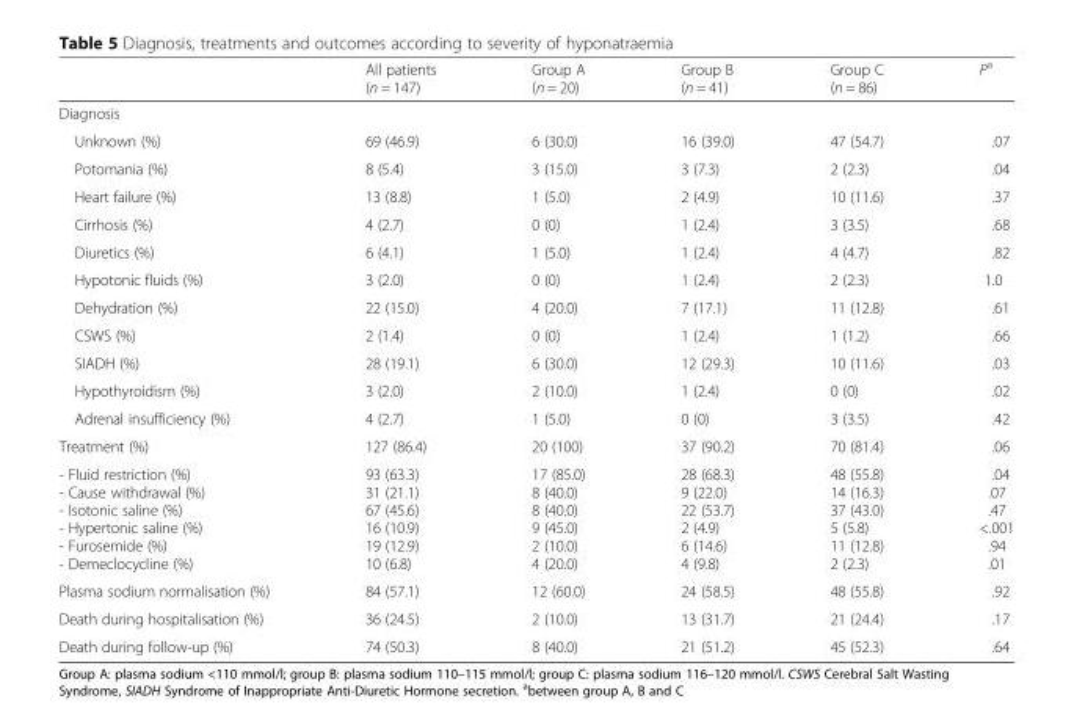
<table><thead><tr><td></td><td>All patients (n = 147)</td><td>Group A (n = 20)</td><td>Group B (n = 41)</td><td>Group C (n = 86)</td><td>P<sup>a</sup></td></tr></thead><tbody><tr><td colspan="6">Diagnosis</td></tr><tr><td>Unknown (%)</td><td>69 (46.9)</td><td>6 (30.0)</td><td>16 (39.0)</td><td>47 (54.7)</td><td>.07</td></tr><tr><td>Potomania (%)</td><td>8 (5.4)</td><td>3 (15.0)</td><td>3 (7.3)</td><td>2 (2.3)</td><td>.04</td></tr><tr><td>Heart failure (%)</td><td>13 (8.8)</td><td>1 (5.0)</td><td>2 (4.9)</td><td>10 (11.6)</td><td>.37</td></tr><tr><td>Cirrhosis (%)</td><td>4 (2.7)</td><td>0 (0)</td><td>1 (2.4)</td><td>3 (3.5)</td><td>.68</td></tr><tr><td>Diuretics (%)</td><td>6 (4.1)</td><td>1 (5.0)</td><td>1 (2.4)</td><td>4 (4.7)</td><td>.82</td></tr><tr><td>Hypotonic fluids (%)</td><td>3 (2.0)</td><td>0 (0)</td><td>1 (2.4)</td><td>2 (2.3)</td><td>1.0</td></tr><tr><td>Dehydration (%)</td><td>22 (15.0)</td><td>4 (20.0)</td><td>7 (17.1)</td><td>11 (12.8)</td><td>.61</td></tr><tr><td>CSWS (%)</td><td>2 (1.4)</td><td>0 (0)</td><td>1 (2.4)</td><td>1 (1.2)</td><td>.66</td></tr><tr><td>SIADH (%)</td><td>28 (19.1)</td><td>6 (30.0)</td><td>12 (29.3)</td><td>10 (11.6)</td><td>.03</td></tr><tr><td>Hypothyroidism (%)</td><td>3 (2.0)</td><td>2 (10.0)</td><td>1 (2.4)</td><td>0 (0)</td><td>.02</td></tr><tr><td>Adrenal insufficiency (%)</td><td>4 (2.7)</td><td>1 (5.0)</td><td>0 (0)</td><td>3 (3.5)</td><td>.42</td></tr><tr><td>Treatment (%)</td><td>127 (86.4)</td><td>20 (100)</td><td>37 (90.2)</td><td>70 (81.4)</td><td>.06</td></tr><tr><td>- Fluid restriction (%) - Cause withdrawal (%) - Isotonic saline (%) - Hypertonic saline (%) - Furosemide (%) - Demeclocycline (%)</td><td>93 (63.3) 31 (21.1) 67 (45.6) 16 (10.9) 19 (12.9) 10 (6.8)</td><td>17 (85.0) 8 (40.0) 8 (40.0) 9 (45.0) 2 (10.0) 4 (20.0)</td><td>28 (68.3) 9 (22.0) 22 (53.7) 2 (4.9) 6 (14.6) 4 (9.8)</td><td>48 (55.8) 14 (16.3) 37 (43.0) 5 (5.8) 11 (12.8) 2 (2.3)</td><td>.04 .07 .47 &lt;.001 .94 .01</td></tr><tr><td>Plasma sodium normalisation (%)</td><td>84 (57.1)</td><td>12 (60.0)</td><td>24 (58.5)</td><td>48 (55.8)</td><td>.92</td></tr><tr><td>Death during hospitalisation (%)</td><td>36 (24.5)</td><td>2 (10.0)</td><td>13 (31.7)</td><td>21 (24.4)</td><td>.17</td></tr><tr><td>Death during follow-up (%)</td><td>74 (50.3)</td><td>8 (40.0)</td><td>21 (51.2)</td><td>45 (52.3)</td><td>.64</td></tr></tbody></table>